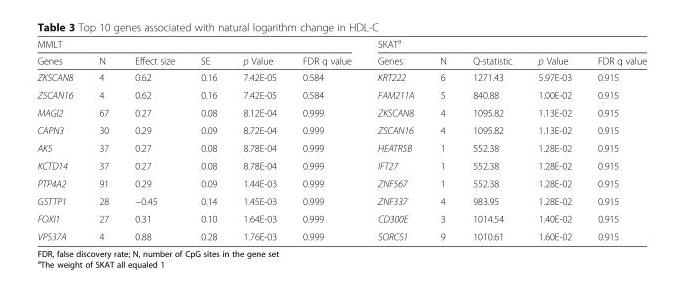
<table><thead><tr><td colspan="6">MMLT</td><td colspan="5">SKAT<sup>a</sup></td></tr><tr><td>Genes</td><td>N</td><td>Effect size</td><td>SE</td><td>p Value</td><td>FDR q value</td><td>Genes</td><td>N</td><td>Q-statistic</td><td>p Value</td><td>FDR q value</td></tr></thead><tbody><tr><td>ZKSCAN8</td><td>4</td><td>0.62</td><td>0.16</td><td>7.42E-05</td><td>0.584</td><td>KRT222</td><td>6</td><td>1271.43</td><td>5.97E-03</td><td>0.915</td></tr><tr><td>ZSCAN16</td><td>4</td><td>0.62</td><td>0.16</td><td>7.42E-05</td><td>0.584</td><td>FAM211A</td><td>5</td><td>840.88</td><td>1.00E-02</td><td>0.915</td></tr><tr><td>MAGI2</td><td>67</td><td>0.27</td><td>0.08</td><td>8.12E-04</td><td>0.999</td><td>ZKSCAN8</td><td>4</td><td>1095.82</td><td>1.13E-02</td><td>0.915</td></tr><tr><td>CAPN3</td><td>30</td><td>0.29</td><td>0.09</td><td>8.72E-04</td><td>0.999</td><td>ZSCAN16</td><td>4</td><td>1095.82</td><td>1.13E-02</td><td>0.915</td></tr><tr><td>AK5</td><td>37</td><td>0.27</td><td>0.08</td><td>8.78E-04</td><td>0.999</td><td>HEATR5B</td><td>1</td><td>552.38</td><td>1.28E-02</td><td>0.915</td></tr><tr><td>KCTD14</td><td>37</td><td>0.27</td><td>0.08</td><td>8.78E-04</td><td>0.999</td><td>IFT27</td><td>1</td><td>552.38</td><td>1.28E-02</td><td>0.915</td></tr><tr><td>PTP4A2</td><td>91</td><td>0.29</td><td>0.09</td><td>1.44E-03</td><td>0.999</td><td>ZNF567</td><td>1</td><td>552.38</td><td>1.28E-02</td><td>0.915</td></tr><tr><td>GSTTP1</td><td>28</td><td>−0.45</td><td>0.14</td><td>1.45E-03</td><td>0.999</td><td>ZNF337</td><td>4</td><td>983.95</td><td>1.28E-02</td><td>0.915</td></tr><tr><td>FOXI1</td><td>27</td><td>0.31</td><td>0.10</td><td>1.64E-03</td><td>0.999</td><td>CD300E</td><td>3</td><td>1014.54</td><td>1.40E-02</td><td>0.915</td></tr><tr><td>VPS37A</td><td>4</td><td>0.88</td><td>0.28</td><td>1.76E-03</td><td>0.999</td><td>SORCS1</td><td>9</td><td>1010.61</td><td>1.60E-02</td><td>0.915</td></tr></tbody></table>